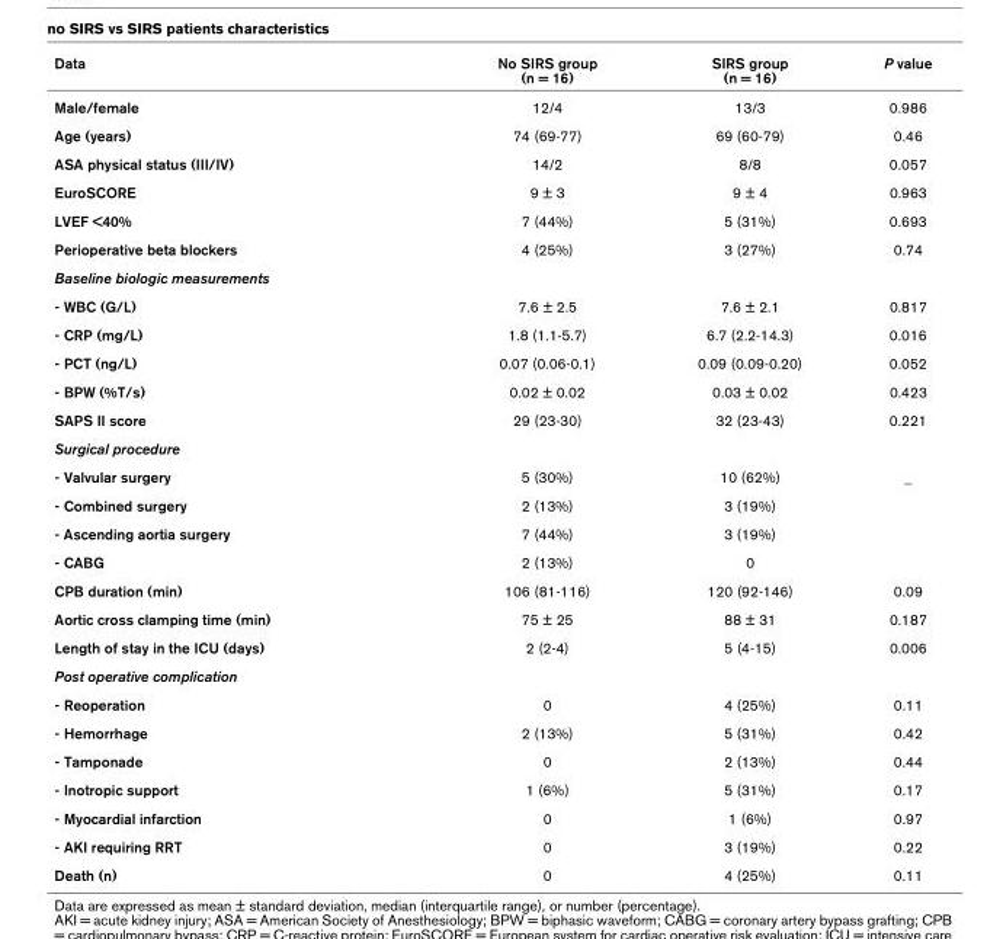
<table><thead><tr><td>Data</td><td>No SIRS group (n = 16)</td><td>SIRS group (n = 16)</td><td>P value</td></tr></thead><tbody><tr><td>Male/female</td><td>12/4</td><td>13/3</td><td>0.986</td></tr><tr><td>Age (years)</td><td>74 (69-77)</td><td>69 (60-79)</td><td>0.46</td></tr><tr><td>ASA physical status (III/IV)</td><td>14/2</td><td>8/8</td><td>0.057</td></tr><tr><td>EuroSCORE</td><td>9 ± 3</td><td>9 ± 4</td><td>0.963</td></tr><tr><td>LVEF &lt;40%</td><td>7 (44%)</td><td>5 (31%)</td><td>0.693</td></tr><tr><td>Perioperative beta blockers</td><td>4 (25%)</td><td>3 (27%)</td><td>0.74</td></tr><tr><td colspan="4">Baseline biologic measurements</td></tr><tr><td>- WBC (G/L)</td><td>7.6 ± 2.5</td><td>7.6 ± 2.1</td><td>0.817</td></tr><tr><td>- CRP (mg/L)</td><td>1.8 (1.1-5.7)</td><td>6.7 (2.2-14.3)</td><td>0.016</td></tr><tr><td>- PCT (ng/L)</td><td>0.07 (0.06-0.1)</td><td>0.09 (0.09-0.20)</td><td>0.052</td></tr><tr><td>- BPW (%T/s)</td><td>0.02 ± 0.02</td><td>0.03 ± 0.02</td><td>0.423</td></tr><tr><td>SAPS II score</td><td>29 (23-30)</td><td>32 (23-43)</td><td>0.221</td></tr><tr><td colspan="4">Surgical procedure</td></tr><tr><td>- Valvular surgery</td><td>5 (30%)</td><td>10 (62%)</td><td>_</td></tr><tr><td>- Combined surgery</td><td>2 (13%)</td><td>3 (19%)</td><td></td></tr><tr><td>- Ascending aortia surgery</td><td>7 (44%)</td><td>3 (19%)</td><td></td></tr><tr><td>- CABG</td><td>2 (13%)</td><td>0</td><td></td></tr><tr><td>CPB duration (min)</td><td>106 (81-116)</td><td>120 (92-146)</td><td>0.09</td></tr><tr><td>Aortic cross clamping time (min)</td><td>75 ± 25</td><td>88 ± 31</td><td>0.187</td></tr><tr><td>Length of stay in the ICU (days)</td><td>2 (2-4)</td><td>5 (4-15)</td><td>0.006</td></tr><tr><td colspan="4">Post operative complication</td></tr><tr><td>- Reoperation</td><td>0</td><td>4 (25%)</td><td>0.11</td></tr><tr><td>- Hemorrhage</td><td>2 (13%)</td><td>5 (31%)</td><td>0.42</td></tr><tr><td>- Tamponade</td><td>0</td><td>2 (13%)</td><td>0.44</td></tr><tr><td>- Inotropic support</td><td>1 (6%)</td><td>5 (31%)</td><td>0.17</td></tr><tr><td>- Myocardial infarction</td><td>0</td><td>1 (6%)</td><td>0.97</td></tr><tr><td>- AKI requiring RRT</td><td>0</td><td>3 (19%)</td><td>0.22</td></tr><tr><td>Death (n)</td><td>0</td><td>4 (25%)</td><td>0.11</td></tr></tbody></table>